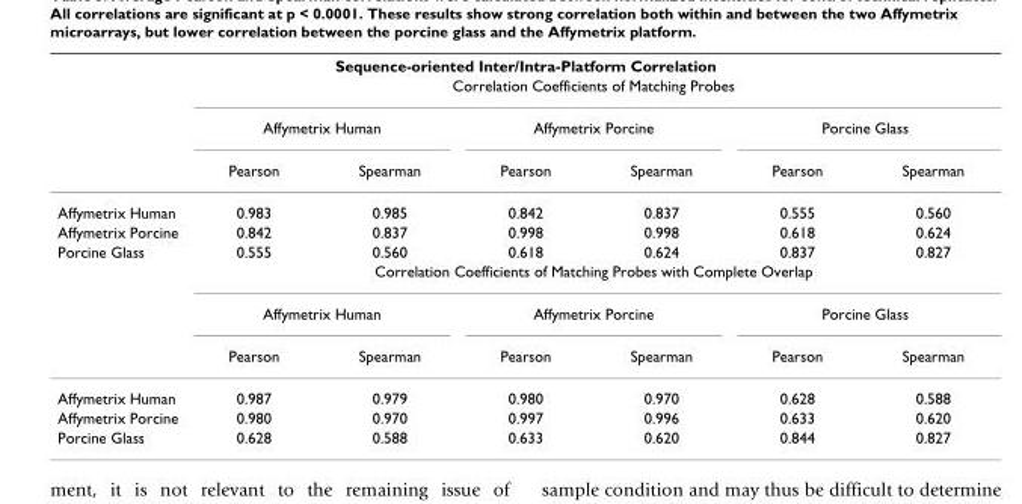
<table><thead><tr><td colspan="7">Sequence-oriented Inter/Intra-Platform Correlation</td></tr><tr><td rowspan="3"></td><td colspan="6">Correlation Coefficients of Matching Probes</td></tr><tr><td colspan="2">Affymetrix Human</td><td colspan="2">Affymetrix Porcine</td><td colspan="2">Porcine Glass</td></tr><tr><td>Pearson</td><td>Spearman</td><td>Pearson</td><td>Spearman</td><td>Pearson</td><td>Spearman</td></tr></thead><tbody><tr><td>Affymetrix Human</td><td>0.983</td><td>0.985</td><td>0.842</td><td>0.837</td><td>0.555</td><td>0.560</td></tr><tr><td>Affymetrix Porcine</td><td>0.842</td><td>0.837</td><td>0.998</td><td>0.998</td><td>0.618</td><td>0.624</td></tr><tr><td rowspan="4">Porcine Glass</td><td>0.555</td><td>0.560</td><td>0.618</td><td>0.624</td><td>0.837</td><td>0.827</td></tr><tr><td colspan="6">Correlation Coefficients of Matching Probes with Complete Overlap</td></tr><tr><td colspan="2">Affymetrix Human</td><td colspan="2">Affymetrix Porcine</td><td colspan="2">Porcine Glass</td></tr><tr><td>Pearson</td><td>Spearman</td><td>Pearson</td><td>Spearman</td><td>Pearson</td><td>Spearman</td></tr><tr><td>Affymetrix Human</td><td>0.987</td><td>0.979</td><td>0.980</td><td>0.970</td><td>0.628</td><td>0.588</td></tr><tr><td>Affymetrix Porcine</td><td>0.980</td><td>0.970</td><td>0.997</td><td>0.996</td><td>0.633</td><td>0.620</td></tr><tr><td>Porcine Glass</td><td>0.628</td><td>0.588</td><td>0.633</td><td>0.620</td><td>0.844</td><td>0.827</td></tr></tbody></table>